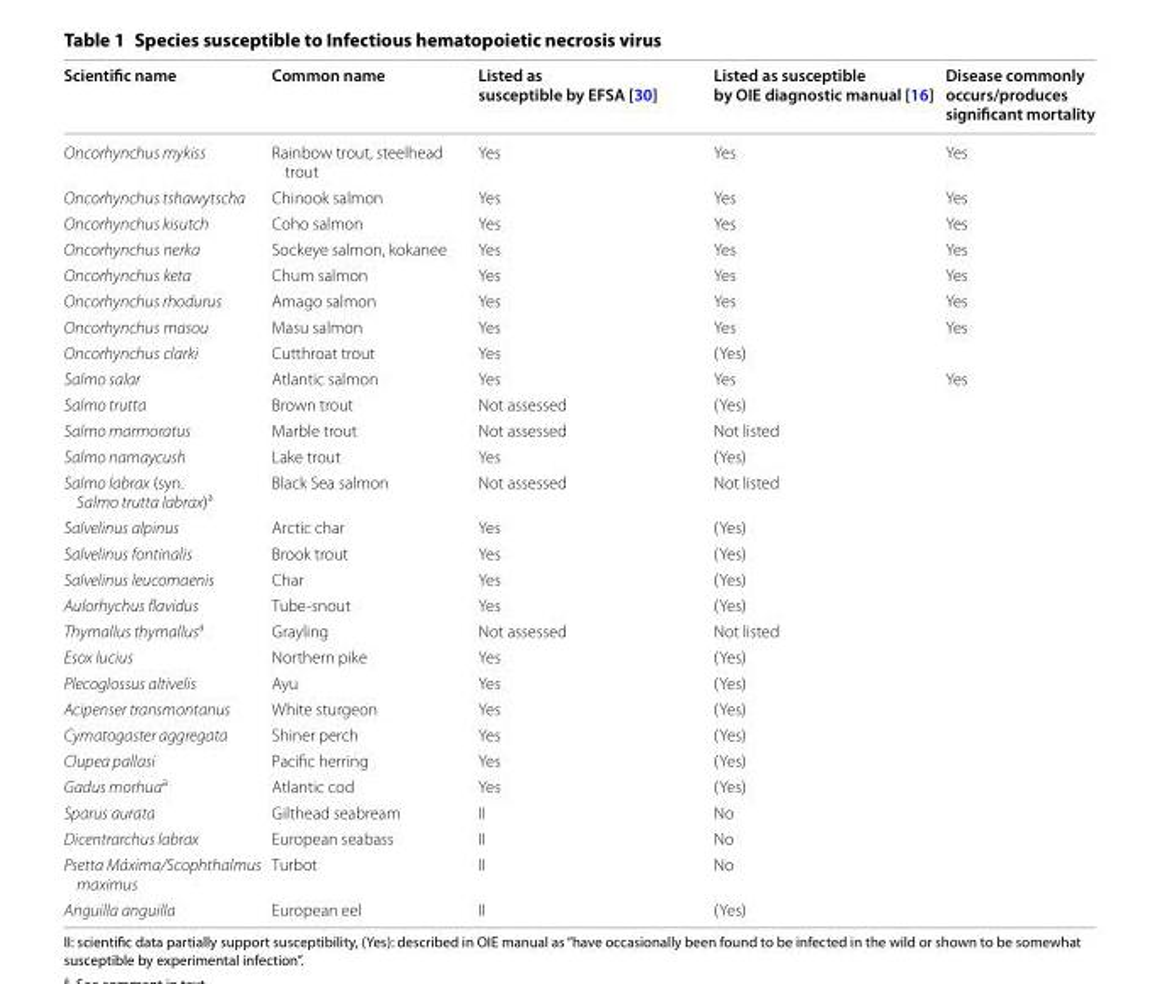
<table><thead><tr><td>Scientific name</td><td>Common name</td><td>Listed as susceptible by EFSA [30]</td><td>Listed as susceptible by OIE diagnostic manual [16]</td><td>Disease commonly occurs/produces significant mortality</td></tr></thead><tbody><tr><td>Oncorhynchus mykiss</td><td>Rainbow trout, steelhead trout</td><td>Yes</td><td>Yes</td><td>Yes</td></tr><tr><td>Oncorhynchus tshawytscha</td><td>Chinook salmon</td><td>Yes</td><td>Yes</td><td>Yes</td></tr><tr><td>Oncorhynchus kisutch</td><td>Coho salmon</td><td>Yes</td><td>Yes</td><td>Yes</td></tr><tr><td>Oncorhynchus nerka</td><td>Sockeye salmon, kokanee</td><td>Yes</td><td>Yes</td><td>Yes</td></tr><tr><td>Oncorhynchus keta</td><td>Chum salmon</td><td>Yes</td><td>Yes</td><td>Yes</td></tr><tr><td>Oncorhynchus rhodurus</td><td>Amago salmon</td><td>Yes</td><td>Yes</td><td>Yes</td></tr><tr><td>Oncorhynchus masou</td><td>Masu salmon</td><td>Yes</td><td>Yes</td><td>Yes</td></tr><tr><td>Oncorhynchus clarki</td><td>Cutthroat trout</td><td>Yes</td><td>(Yes)</td><td></td></tr><tr><td>Salmo salar</td><td>Atlantic salmon</td><td>Yes</td><td>Yes</td><td>Yes</td></tr><tr><td>Salmo trutta</td><td>Brown trout</td><td>Not assessed</td><td>(Yes)</td><td></td></tr><tr><td>Salmo marmoratus</td><td>Marble trout</td><td>Not assessed</td><td>Not listed</td><td></td></tr><tr><td>Salmo namaycush</td><td>Lake trout</td><td>Yes</td><td>(Yes)</td><td></td></tr><tr><td>Salmo labrax (syn. Salmo trutta labrax)<sup>a</sup></td><td>Black Sea salmon</td><td>Not assessed</td><td>Not listed</td><td></td></tr><tr><td>Salvelinus alpinus</td><td>Arctic char</td><td>Yes</td><td>(Yes)</td><td></td></tr><tr><td>Salvelinus fontinalis</td><td>Brook trout</td><td>Yes</td><td>(Yes)</td><td></td></tr><tr><td>Salvelinus leucomaenis</td><td>Char</td><td>Yes</td><td>(Yes)</td><td></td></tr><tr><td>Aulorhychus flavidus</td><td>Tube‑snout</td><td>Yes</td><td>(Yes)</td><td></td></tr><tr><td>Thymallus thymallus<sup>a</sup></td><td>Grayling</td><td>Not assessed</td><td>Not listed</td><td></td></tr><tr><td>Esox lucius</td><td>Northern pike</td><td>Yes</td><td>(Yes)</td><td></td></tr><tr><td>Plecoglossus altivelis</td><td>Ayu</td><td>Yes</td><td>(Yes)</td><td></td></tr><tr><td>Acipenser transmontanus</td><td>White sturgeon</td><td>Yes</td><td>(Yes)</td><td></td></tr><tr><td>Cymatogaster aggregata</td><td>Shiner perch</td><td>Yes</td><td>(Yes)</td><td></td></tr><tr><td>Clupea pallasi</td><td>Pacific herring</td><td>Yes</td><td>(Yes)</td><td></td></tr><tr><td>Gadus morhua<sup>a</sup></td><td>Atlantic cod</td><td>Yes</td><td>(Yes)</td><td></td></tr><tr><td>Sparus aurata</td><td>Gilthead seabream</td><td>II</td><td>No</td><td></td></tr><tr><td>Dicentrarchus labrax</td><td>European seabass</td><td>II</td><td>No</td><td></td></tr><tr><td>Psetta Máxima/Scophthalmus maximus</td><td>Turbot</td><td>II</td><td>No</td><td></td></tr><tr><td>Anguilla anguilla</td><td>European eel</td><td>II</td><td>(Yes)</td><td></td></tr></tbody></table>